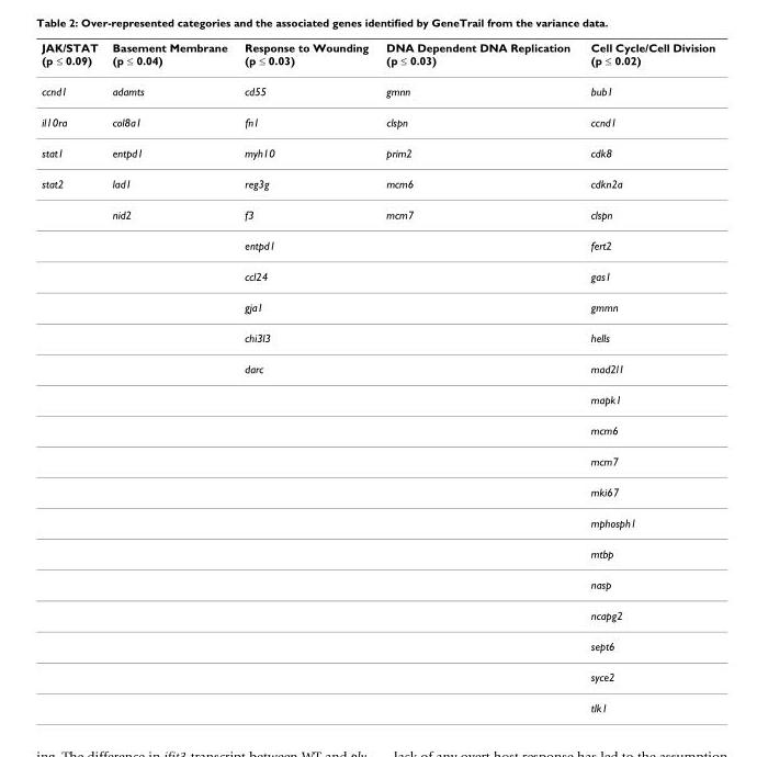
<table><thead><tr><td>JAK/STAT (p ≤ 0.09)</td><td>Basement Membrane (p ≤ 0.04)</td><td>Response to Wounding (p ≤ 0.03)</td><td>DNA Dependent DNA Replication (p ≤ 0.03)</td><td>Cell Cycle/Cell Division (p ≤ 0.02)</td></tr></thead><tbody><tr><td>ccnd1</td><td>adamts</td><td>cd55</td><td>gmnn</td><td>bub1</td></tr><tr><td>il10ra</td><td>col8a1</td><td>fn1</td><td>clspn</td><td>ccnd1</td></tr><tr><td>stat1</td><td>entpd1</td><td>myh10</td><td>prim2</td><td>cdk8</td></tr><tr><td rowspan="18">stat2</td><td>lad1</td><td>reg3g</td><td>mcm6</td><td>cdkn2a</td></tr><tr><td>nid2</td><td>f3</td><td>mcm7</td><td>clspn</td></tr><tr><td></td><td>entpd1</td><td></td><td>fert2</td></tr><tr><td></td><td>ccl24</td><td></td><td>gas1</td></tr><tr><td></td><td>gja1</td><td></td><td>gmmn</td></tr><tr><td></td><td>chi3l3</td><td></td><td>hells</td></tr><tr><td></td><td>darc</td><td></td><td>mad2l1</td></tr><tr><td></td><td></td><td></td><td>mapk1</td></tr><tr><td></td><td></td><td></td><td>mcm6</td></tr><tr><td></td><td></td><td></td><td>mcm7</td></tr><tr><td></td><td></td><td></td><td>mki67</td></tr><tr><td></td><td></td><td></td><td>mphosph1</td></tr><tr><td></td><td></td><td></td><td>mtbp</td></tr><tr><td></td><td></td><td></td><td>nasp</td></tr><tr><td></td><td></td><td></td><td>ncapg2</td></tr><tr><td></td><td></td><td></td><td>sept6</td></tr><tr><td></td><td></td><td></td><td>syce2</td></tr><tr><td></td><td></td><td></td><td>tlk1</td></tr></tbody></table>